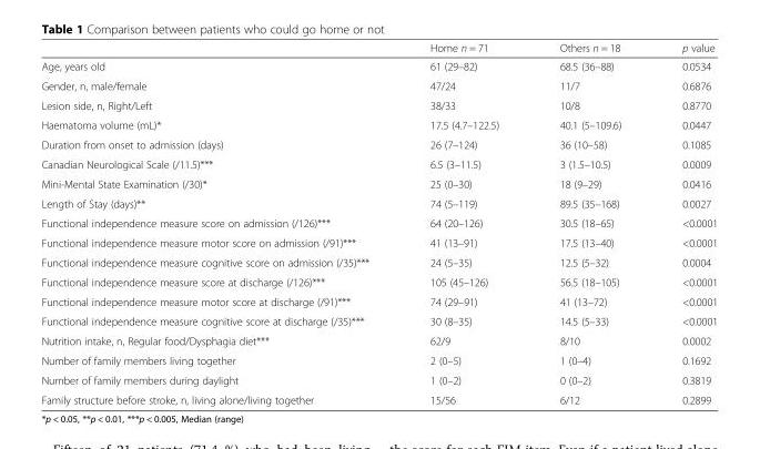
<table><thead><tr><td></td><td>Home n = 71</td><td>Others n = 18</td><td>p value</td></tr></thead><tbody><tr><td>Age, years old</td><td>61 (29–82)</td><td>68.5 (36–88)</td><td>0.0534</td></tr><tr><td>Gender, n, male/female</td><td>47/24</td><td>11/7</td><td>0.6876</td></tr><tr><td>Lesion side, n, Right/Left</td><td>38/33</td><td>10/8</td><td>0.8770</td></tr><tr><td>Haematoma volume (mL)*</td><td>17.5 (4.7–122.5)</td><td>40.1 (5–109.6)</td><td>0.0447</td></tr><tr><td>Duration from onset to admission (days)</td><td>26 (7–124)</td><td>36 (10–58)</td><td>0.1085</td></tr><tr><td>Canadian Neurological Scale (/11.5)***</td><td>6.5 (3–11.5)</td><td>3 (1.5–10.5)</td><td>0.0009</td></tr><tr><td>Mini-Mental State Examination (/30)*</td><td>25 (0–30)</td><td>18 (9–29)</td><td>0.0416</td></tr><tr><td>Length of Stay (days)**</td><td>74 (5–119)</td><td>89.5 (35–168)</td><td>0.0027</td></tr><tr><td>Functional independence measure score on admission (/126)***</td><td>64 (20–126)</td><td>30.5 (18–65)</td><td>&lt;0.0001</td></tr><tr><td>Functional independence measure motor score on admission (/91)***</td><td>41 (13–91)</td><td>17.5 (13–40)</td><td>&lt;0.0001</td></tr><tr><td>Functional independence measure cognitive score on admission (/35)***</td><td>24 (5–35)</td><td>12.5 (5–32)</td><td>0.0004</td></tr><tr><td>Functional independence measure score at discharge (/126)***</td><td>105 (45–126)</td><td>56.5 (18–105)</td><td>&lt;0.0001</td></tr><tr><td>Functional independence measure motor score at discharge (/91)***</td><td>74 (29–91)</td><td>41 (13–72)</td><td>&lt;0.0001</td></tr><tr><td>Functional independence measure cognitive score at discharge (/35)***</td><td>30 (8–35)</td><td>14.5 (5–33)</td><td>&lt;0.0001</td></tr><tr><td>Nutrition intake, n, Regular food/Dysphagia diet***</td><td>62/9</td><td>8/10</td><td>0.0002</td></tr><tr><td>Number of family members living together</td><td>2 (0–5)</td><td>1 (0–4)</td><td>0.1692</td></tr><tr><td>Number of family members during daylight</td><td>1 (0–2)</td><td>0 (0–2)</td><td>0.3819</td></tr><tr><td>Family structure before stroke, n, living alone/living together</td><td>15/56</td><td>6/12</td><td>0.2899</td></tr></tbody></table>